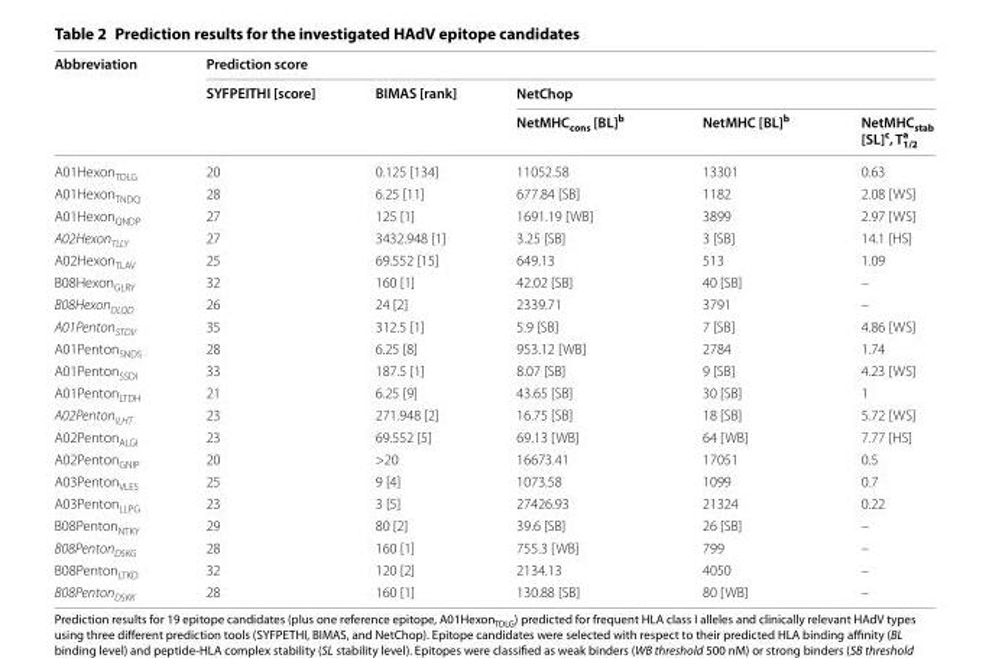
<table><thead><tr><td rowspan="3">Abbreviation</td><td colspan="5">Prediction score</td></tr><tr><td rowspan="2">SYFPEITHI [score]</td><td rowspan="2">BIMAS [rank]</td><td colspan="3">NetChop</td></tr><tr><td>NetMHC<sub>cons</sub> [BL]<sup>b</sup></td><td>NetMHC [BL]<sup>b</sup></td><td>NetMHCstab [SL]c, Ta 1/2</td></tr></thead><tbody><tr><td>A01Hexon<sub>TDLG</sub></td><td>20</td><td>0.125 [134]</td><td>11052.58</td><td>13301</td><td>0.63</td></tr><tr><td>A01Hexon<sub>TNDQ</sub></td><td>28</td><td>6.25 [11]</td><td>677.84 [SB]</td><td>1182</td><td>2.08 [WS]</td></tr><tr><td>A01Hexon<sub>QNDP</sub></td><td>27</td><td>125 [1]</td><td>1691.19 [WB]</td><td>3899</td><td>2.97 [WS]</td></tr><tr><td>A02Hexon<sub>TLLY</sub></td><td>27</td><td>3432.948 [1]</td><td>3.25 [SB]</td><td>3 [SB]</td><td>14.1 [HS]</td></tr><tr><td>A02Hexon<sub>TLAV</sub></td><td>25</td><td>69.552 [15]</td><td>649.13</td><td>513</td><td>1.09</td></tr><tr><td>B08Hexon<sub>GLRY</sub></td><td>32</td><td>160 [1]</td><td>42.02 [SB]</td><td>40 [SB]</td><td>–</td></tr><tr><td>B08Hexon<sub>DLQD</sub></td><td>26</td><td>24 [2]</td><td>2339.71</td><td>3791</td><td>–</td></tr><tr><td>A01Penton<sub>STDV</sub></td><td>35</td><td>312.5 [1]</td><td>5.9 [SB]</td><td>7 [SB]</td><td>4.86 [WS]</td></tr><tr><td>A01Penton<sub>SNDS</sub></td><td>28</td><td>6.25 [8]</td><td>953.12 [WB]</td><td>2784</td><td>1.74</td></tr><tr><td>A01Penton<sub>SSDI</sub></td><td>33</td><td>187.5 [1]</td><td>8.07 [SB]</td><td>9 [SB]</td><td>4.23 [WS]</td></tr><tr><td>A01Penton<sub>LTDH</sub></td><td>21</td><td>6.25 [9]</td><td>43.65 [SB]</td><td>30 [SB]</td><td>1</td></tr><tr><td>A02Penton<sub>ILHT</sub></td><td>23</td><td>271.948 [2]</td><td>16.75 [SB]</td><td>18 [SB]</td><td>5.72 [WS]</td></tr><tr><td>A02Penton<sub>ALGI</sub></td><td>23</td><td>69.552 [5]</td><td>69.13 [WB]</td><td>64 [WB]</td><td>7.77 [HS]</td></tr><tr><td>A02Penton<sub>GNIP</sub></td><td>20</td><td>&gt;20</td><td>16673.41</td><td>17051</td><td>0.5</td></tr><tr><td>A03Penton<sub>VLES</sub></td><td>25</td><td>9 [4]</td><td>1073.58</td><td>1099</td><td>0.7</td></tr><tr><td>A03Penton<sub>LLPG</sub></td><td>23</td><td>3 [5]</td><td>27426.93</td><td>21324</td><td>0.22</td></tr><tr><td>B08Penton<sub>NTKY</sub></td><td>29</td><td>80 [2]</td><td>39.6 [SB]</td><td>26 [SB]</td><td>–</td></tr><tr><td>B08Penton<sub>DSKG</sub></td><td>28</td><td>160 [1]</td><td>755.3 [WB]</td><td>799</td><td>–</td></tr><tr><td>B08Penton<sub>LTKD</sub></td><td>32</td><td>120 [2]</td><td>2134.13</td><td>4050</td><td>–</td></tr><tr><td>B08Penton<sub>DSKK</sub></td><td>28</td><td>160 [1]</td><td>130.88 [SB]</td><td>80 [WB]</td><td>–</td></tr></tbody></table>